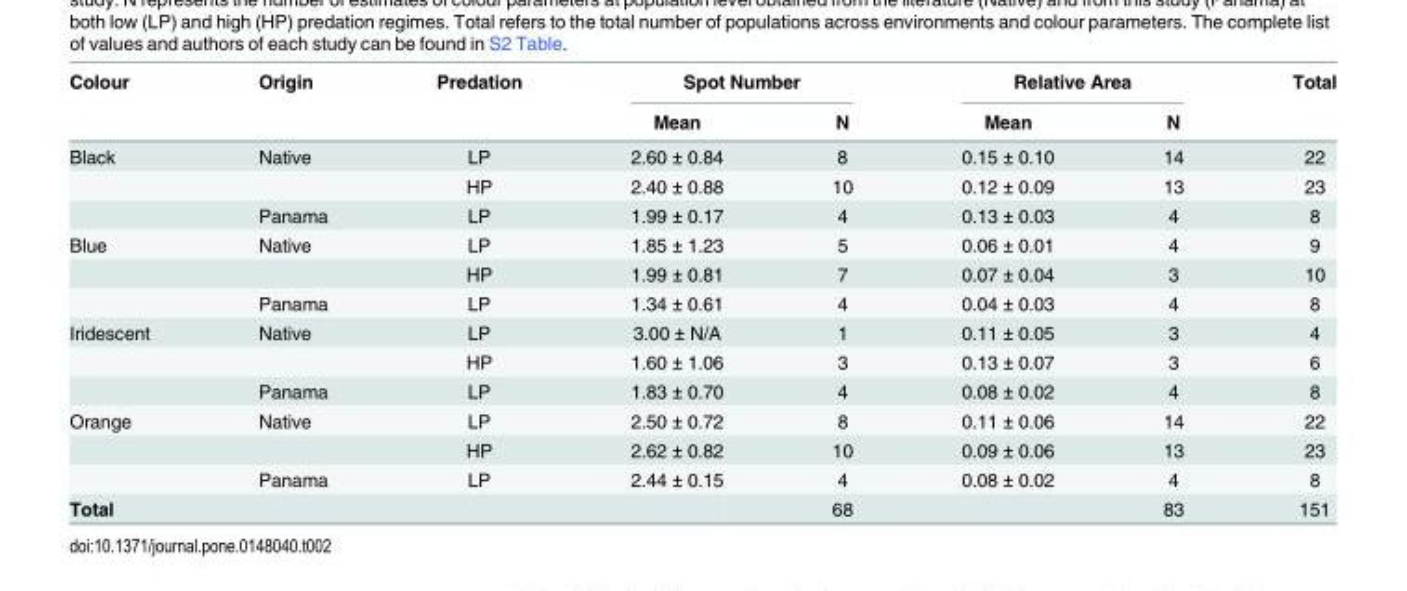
<table><thead><tr><td rowspan="2">Colour</td><td rowspan="2">Origin</td><td rowspan="2">Predation</td><td colspan="2">Spot Number</td><td colspan="2">Relative Area</td><td rowspan="2">Total</td></tr><tr><td>Mean</td><td>N</td><td>Mean</td><td>N</td></tr></thead><tbody><tr><td rowspan="3">Black</td><td>Native</td><td>LP</td><td>2.60 ± 0.84</td><td>8</td><td>0.15 ± 0.10</td><td>14</td><td>22</td></tr><tr><td></td><td>HP</td><td>2.40 ± 0.88</td><td>10</td><td>0.12 ± 0.09</td><td>13</td><td>23</td></tr><tr><td>Panama</td><td>LP</td><td>1.99 ± 0.17</td><td>4</td><td>0.13 ± 0.03</td><td>4</td><td>8</td></tr><tr><td rowspan="3">Blue</td><td>Native</td><td>LP</td><td>1.85 ± 1.23</td><td>5</td><td>0.06 ± 0.01</td><td>4</td><td>9</td></tr><tr><td></td><td>HP</td><td>1.99 ± 0.81</td><td>7</td><td>0.07 ± 0.04</td><td>3</td><td>10</td></tr><tr><td>Panama</td><td>LP</td><td>1.34 ± 0.61</td><td>4</td><td>0.04 ± 0.03</td><td>4</td><td>8</td></tr><tr><td rowspan="3">Iridescent</td><td>Native</td><td>LP</td><td>3.00 ± N/A</td><td>1</td><td>0.11 ± 0.05</td><td>3</td><td>4</td></tr><tr><td></td><td>HP</td><td>1.60 ± 1.06</td><td>3</td><td>0.13 ± 0.07</td><td>3</td><td>6</td></tr><tr><td>Panama</td><td>LP</td><td>1.83 ± 0.70</td><td>4</td><td>0.08 ± 0.02</td><td>4</td><td>8</td></tr><tr><td rowspan="3">Orange</td><td>Native</td><td>LP</td><td>2.50 ± 0.72</td><td>8</td><td>0.11 ± 0.06</td><td>14</td><td>22</td></tr><tr><td></td><td>HP</td><td>2.62 ± 0.82</td><td>10</td><td>0.09 ± 0.06</td><td>13</td><td>23</td></tr><tr><td>Panama</td><td>LP</td><td>2.44 ± 0.15</td><td>4</td><td>0.08 ± 0.02</td><td>4</td><td>8</td></tr><tr><td>Total</td><td></td><td></td><td></td><td>68</td><td></td><td>83</td><td>151</td></tr></tbody></table>